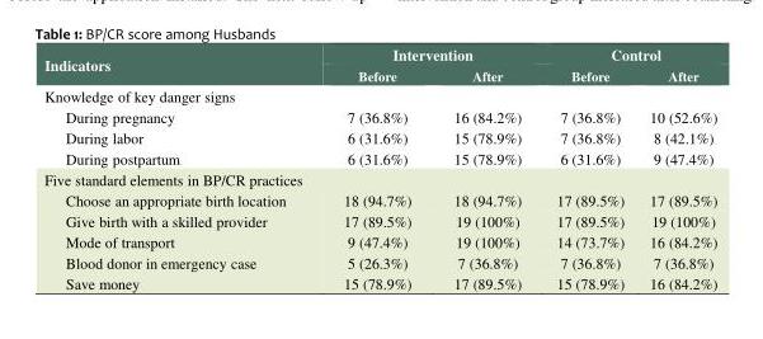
<table><thead><tr><td rowspan="2">Indicators</td><td colspan="2">Intervention</td><td colspan="2">Control</td></tr><tr><td>Before</td><td>After</td><td>Before</td><td>After</td></tr></thead><tbody><tr><td colspan="5">Knowledge of key danger signs</td></tr><tr><td>During pregnancy</td><td>7 (36.8%)</td><td>16 (84.2%)</td><td>7 (36.8%)</td><td>10 (52.6%)</td></tr><tr><td>During labor</td><td>6 (31.6%)</td><td>15 (78.9%)</td><td>7 (36.8%)</td><td>8 (42.1%)</td></tr><tr><td>During postpartum</td><td>6 (31.6%)</td><td>15 (78.9%)</td><td>6 (31.6%)</td><td>9 (47.4%)</td></tr><tr><td colspan="5">Five standard elements in BP/CR practices</td></tr><tr><td>Choose an appropriate birth location</td><td>18 (94.7%)</td><td>18 (94.7%)</td><td>17 (89.5%)</td><td>17 (89.5%)</td></tr><tr><td>Give birth with a skilled provider</td><td>17 (89.5%)</td><td>19 (100%)</td><td>17 (89.5%)</td><td>19 (100%)</td></tr><tr><td>Mode of transport</td><td>9 (47.4%)</td><td>19 (100%)</td><td>14 (73.7%)</td><td>16 (84.2%)</td></tr><tr><td>Blood donor in emergency case</td><td>5 (26.3%)</td><td>7 (36.8%)</td><td>7 (36.8%)</td><td>7 (36.8%)</td></tr><tr><td>Save money</td><td>15 (78.9%)</td><td>17 (89.5%)</td><td>15 (78.9%)</td><td>16 (84.2%)</td></tr></tbody></table>